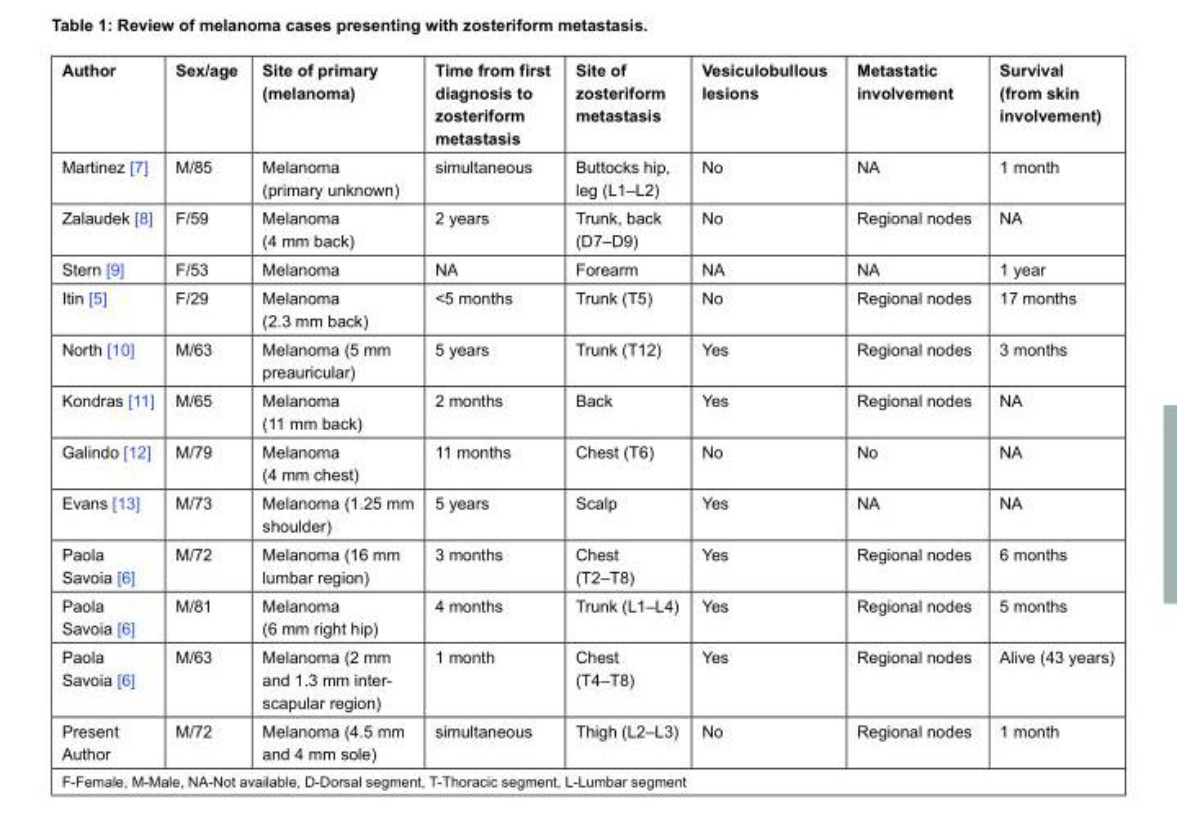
<table><thead><tr><td>Author</td><td>Sex/age</td><td>Site of primary (melanoma)</td><td>Time from first diagnosis to zosteriform metastasis</td><td>Site of zosteriform metastasis</td><td>Vesiculobullous lesions</td><td>Metastatic involvement</td><td>Survival (from skin involvement)</td></tr></thead><tbody><tr><td>Martinez [7]</td><td>M/85</td><td>Melanoma (primary unknown)</td><td>simultaneous</td><td>Buttocks hip, leg (L1–L2)</td><td>No</td><td>NA</td><td>1 month</td></tr><tr><td>Zalaudek [8]</td><td>F/59</td><td>Melanoma (4 mm back)</td><td>2 years</td><td>Trunk, back (D7–D9)</td><td>No</td><td>Regional nodes</td><td>NA</td></tr><tr><td>Stern [9]</td><td>F/53</td><td>Melanoma</td><td>NA</td><td>Forearm</td><td>NA</td><td>NA</td><td>1 year</td></tr><tr><td>Itin [5]</td><td>F/29</td><td>Melanoma (2.3 mm back)</td><td>&lt;5 months</td><td>Trunk (T5)</td><td>No</td><td>Regional nodes</td><td>17 months</td></tr><tr><td>North [10]</td><td>M/63</td><td>Melanoma (5 mm preauricular)</td><td>5 years</td><td>Trunk (T12)</td><td>Yes</td><td>Regional nodes</td><td>3 months</td></tr><tr><td>Kondras [11]</td><td>M/65</td><td>Melanoma (11 mm back)</td><td>2 months</td><td>Back</td><td>Yes</td><td>Regional nodes</td><td>NA</td></tr><tr><td>Galindo [12]</td><td>M/79</td><td>Melanoma (4 mm chest)</td><td>11 months</td><td>Chest (T6)</td><td>No</td><td>No</td><td>NA</td></tr><tr><td>Evans [13]</td><td>M/73</td><td>Melanoma (1.25 mm shoulder)</td><td>5 years</td><td>Scalp</td><td>Yes</td><td>NA</td><td>NA</td></tr><tr><td>Paola Savoia [6]</td><td>M/72</td><td>Melanoma (16 mm lumbar region)</td><td>3 months</td><td>Chest (T2–T8)</td><td>Yes</td><td>Regional nodes</td><td>6 months</td></tr><tr><td>Paola Savoia [6]</td><td>M/81</td><td>Melanoma (6 mm right hip)</td><td>4 months</td><td>Trunk (L1–L4)</td><td>Yes</td><td>Regional nodes</td><td>5 months</td></tr><tr><td>Paola Savoia [6]</td><td>M/63</td><td>Melanoma (2 mm and 1.3 mm inter- scapular region)</td><td>1 month</td><td>Chest (T4–T8)</td><td>Yes</td><td>Regional nodes</td><td>Alive (43 years)</td></tr><tr><td>Present Author</td><td>M/72</td><td>Melanoma (4.5 mm and 4 mm sole)</td><td>simultaneous</td><td>Thigh (L2–L3)</td><td>No</td><td>Regional nodes</td><td>1 month</td></tr></tbody></table>